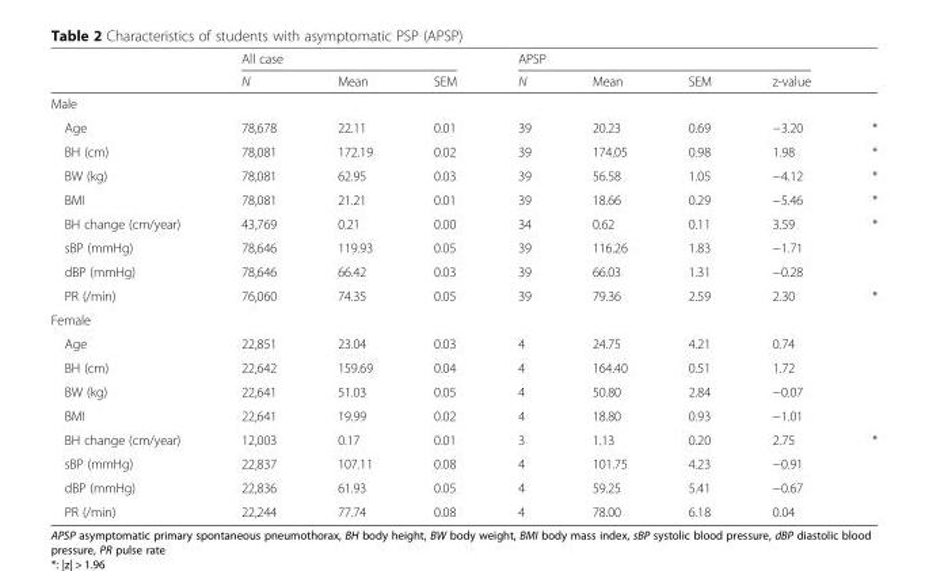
<table><thead><tr><td rowspan="2"></td><td colspan="3">All case</td><td colspan="4">APSP</td><td rowspan="2"></td></tr><tr><td>N</td><td>Mean</td><td>SEM</td><td>N</td><td>Mean</td><td>SEM</td><td>z-value</td></tr></thead><tbody><tr><td colspan="9">Male</td></tr><tr><td>Age</td><td>78,678</td><td>22.11</td><td>0.01</td><td>39</td><td>20.23</td><td>0.69</td><td>−3.20</td><td>*</td></tr><tr><td>BH (cm)</td><td>78,081</td><td>172.19</td><td>0.02</td><td>39</td><td>174.05</td><td>0.98</td><td>1.98</td><td>*</td></tr><tr><td>BW (kg)</td><td>78,081</td><td>62.95</td><td>0.03</td><td>39</td><td>56.58</td><td>1.05</td><td>−4.12</td><td>*</td></tr><tr><td>BMI</td><td>78,081</td><td>21.21</td><td>0.01</td><td>39</td><td>18.66</td><td>0.29</td><td>−5.46</td><td>*</td></tr><tr><td>BH change (cm/year)</td><td>43,769</td><td>0.21</td><td>0.00</td><td>34</td><td>0.62</td><td>0.11</td><td>3.59</td><td>*</td></tr><tr><td>sBP (mmHg)</td><td>78,646</td><td>119.93</td><td>0.05</td><td>39</td><td>116.26</td><td>1.83</td><td>−1.71</td><td></td></tr><tr><td>dBP (mmHg)</td><td>78,646</td><td>66.42</td><td>0.03</td><td>39</td><td>66.03</td><td>1.31</td><td>−0.28</td><td></td></tr><tr><td>PR (/min)</td><td>76,060</td><td>74.35</td><td>0.05</td><td>39</td><td>79.36</td><td>2.59</td><td>2.30</td><td>*</td></tr><tr><td colspan="9">Female</td></tr><tr><td>Age</td><td>22,851</td><td>23.04</td><td>0.03</td><td>4</td><td>24.75</td><td>4.21</td><td>0.74</td><td></td></tr><tr><td>BH (cm)</td><td>22,642</td><td>159.69</td><td>0.04</td><td>4</td><td>164.40</td><td>0.51</td><td>1.72</td><td></td></tr><tr><td>BW (kg)</td><td>22,641</td><td>51.03</td><td>0.05</td><td>4</td><td>50.80</td><td>2.84</td><td>−0.07</td><td></td></tr><tr><td>BMI</td><td>22,641</td><td>19.99</td><td>0.02</td><td>4</td><td>18.80</td><td>0.93</td><td>−1.01</td><td></td></tr><tr><td>BH change (cm/year)</td><td>12,003</td><td>0.17</td><td>0.01</td><td>3</td><td>1.13</td><td>0.20</td><td>2.75</td><td>*</td></tr><tr><td>sBP (mmHg)</td><td>22,837</td><td>107.11</td><td>0.08</td><td>4</td><td>101.75</td><td>4.23</td><td>−0.91</td><td></td></tr><tr><td>dBP (mmHg)</td><td>22,836</td><td>61.93</td><td>0.05</td><td>4</td><td>59.25</td><td>5.41</td><td>−0.67</td><td></td></tr><tr><td>PR (/min)</td><td>22,244</td><td>77.74</td><td>0.08</td><td>4</td><td>78.00</td><td>6.18</td><td>0.04</td><td></td></tr></tbody></table>